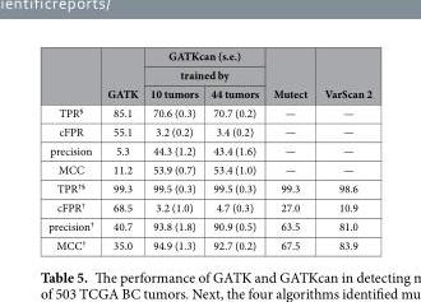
<table><thead><tr><td rowspan="3"></td><td rowspan="3">GATK</td><td rowspan="2" colspan="2">GATKcan (s.e.) trained by</td><td rowspan="3">Mutect</td><td rowspan="3">VarScan 2</td></tr><tr></tr><tr><td>10 tumors</td><td>44 tumors</td></tr></thead><tbody><tr><td>TPR<sup>§</sup></td><td>85.1</td><td>70.6 (0.3)</td><td>70.7 (0.2)</td><td>—</td><td>—</td></tr><tr><td>cFPR</td><td>55.1</td><td>3.2 (0.2)</td><td>3.4 (0.2)</td><td>—</td><td>—</td></tr><tr><td>precision</td><td>5.3</td><td>44.3 (1.2)</td><td>43.4 (1.6)</td><td>—</td><td>—</td></tr><tr><td>MCC</td><td>11.2</td><td>53.9 (0.7)</td><td>53.4 (1.0)</td><td>—</td><td>—</td></tr><tr><td>TPR<sup>†§</sup></td><td>99.3</td><td>99.5 (0.3)</td><td>99.5 (0.3)</td><td>99.3</td><td>98.6</td></tr><tr><td>cFPR<sup>†</sup></td><td>68.5</td><td>3.2 (1.0)</td><td>4.7 (0.3)</td><td>27.0</td><td>10.9</td></tr><tr><td>precision<sup>†</sup></td><td>40.7</td><td>93.8 (1.8)</td><td>90.9 (0.5)</td><td>63.5</td><td>81.0</td></tr><tr><td>MCC<sup>†</sup></td><td>35.0</td><td>94.9 (1.3)</td><td>92.7 (0.2)</td><td>67.5</td><td>83.9</td></tr></tbody></table>